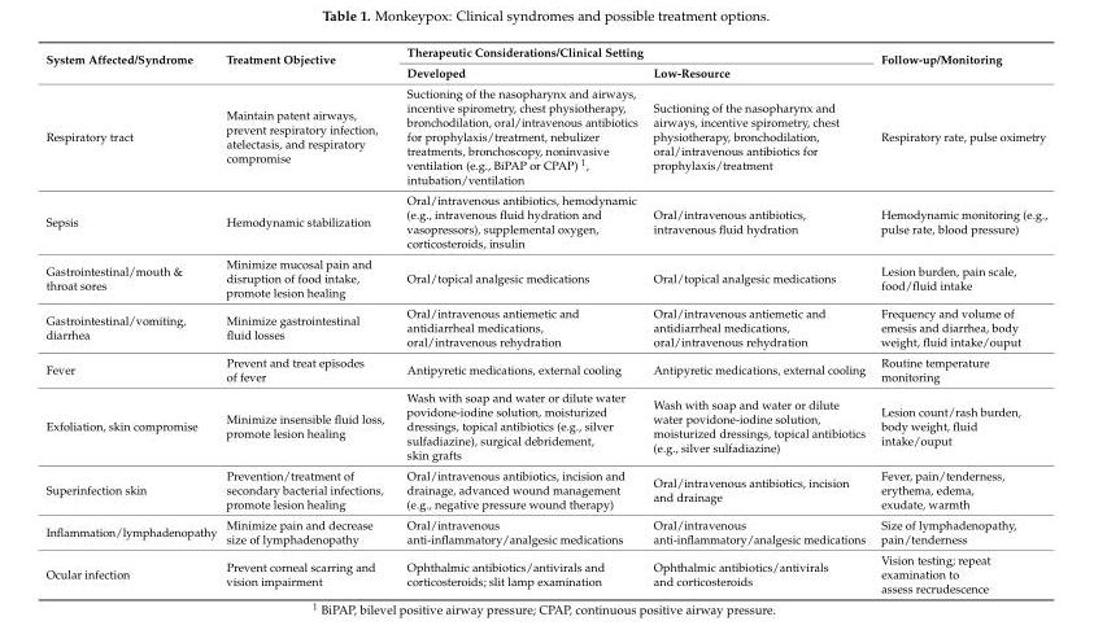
<table><thead><tr><td rowspan="2">System Affected/Syndrome</td><td rowspan="2">Treatment Objective</td><td colspan="2">Therapeutic Considerations/Clinical Setting</td><td rowspan="2">Follow-up/Monitoring</td></tr><tr><td>Developed</td><td>Low-Resource</td></tr></thead><tbody><tr><td>Respiratory tract</td><td>Maintain patent airways, prevent respiratory infection, atelectasis, and respiratory compromise</td><td>Suctioning of the nasopharynx and airways, incentive spirometry, chest physiotherapy, bronchodilation, oral/intravenous antibiotics for prophylaxis/treatment, nebulizer treatments, bronchoscopy, noninvasive ventilation (e.g., BiPAP or CPAP) <sup>1</sup>, intubation/ventilation</td><td>Suctioning of the nasopharynx and airways, incentive spirometry, chest physiotherapy, bronchodilation, oral/intravenous antibiotics for prophylaxis/treatment</td><td>Respiratory rate, pulse oximetry</td></tr><tr><td>Sepsis</td><td>Hemodynamic stabilization</td><td>Oral/intravenous antibiotics, hemodynamic (e.g., intravenous fluid hydration and vasopressors), supplemental oxygen, corticosteroids, insulin</td><td>Oral/intravenous antibiotics, intravenous fluid hydration</td><td>Hemodynamic monitoring (e.g., pulse rate, blood pressure)</td></tr><tr><td>Gastrointestinal/mouth &amp; throat sores</td><td>Minimize mucosal pain and disruption of food intake, promote lesion healing</td><td>Oral/topical analgesic medications</td><td>Oral/topical analgesic medications</td><td>Lesion burden, pain scale, food/fluid intake</td></tr><tr><td>Gastrointestinal/vomiting, diarrhea</td><td>Minimize gastrointestinal fluid losses</td><td>Oral/intravenous antiemetic and antidiarrheal medications, oral/intravenous rehydration</td><td>Oral/intravenous antiemetic and antidiarrheal medications, oral/intravenous rehydration</td><td>Frequency and volume of emesis and diarrhea, body weight, fluid intake/ouput</td></tr><tr><td>Fever</td><td>Prevent and treat episodes of fever</td><td>Antipyretic medications, external cooling</td><td>Antipyretic medications, external cooling</td><td>Routine temperature monitoring</td></tr><tr><td>Exfoliation, skin compromise</td><td>Minimize insensible fluid loss, promote lesion healing</td><td>Wash with soap and water or dilute water povidone-iodine solution, moisturized dressings, topical antibiotics (e.g., silver sulfadiazine), surgical debridement, skin grafts</td><td>Wash with soap and water or dilute water povidone-iodine solution, moisturized dressings, topical antibiotics (e.g., silver sulfadiazine)</td><td>Lesion count/rash burden, body weight, fluid intake/ouput</td></tr><tr><td>Superinfection skin</td><td>Prevention/treatment of secondary bacterial infections, promote lesion healing</td><td>Oral/intravenous antibiotics, incision and drainage, advanced wound management (e.g., negative pressure wound therapy)</td><td>Oral/intravenous antibiotics, incision and drainage</td><td>Fever, pain/tenderness, erythema, edema, exudate, warmth</td></tr><tr><td>Inflammation/lymphadenopathy</td><td>Minimize pain and decrease size of lymphadenopathy</td><td>Oral/intravenous anti-inflammatory/analgesic medications</td><td>Oral/intravenous anti-inflammatory/analgesic medications</td><td>Size of lymphadenopathy, pain/tenderness</td></tr><tr><td>Ocular infection</td><td>Prevent corneal scarring and vision impairment</td><td>Ophthalmic antibiotics/antivirals and corticosteroids; slit lamp examination</td><td>Ophthalmic antibiotics/antivirals and corticosteroids</td><td>Vision testing; repeat examination to assess recrudescence</td></tr></tbody></table>